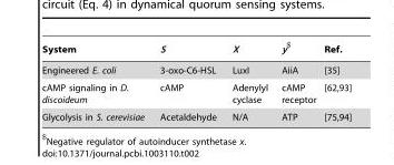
<table><thead><tr><td>System</td><td>S</td><td>X</td><td>y$</td><td>Ref.</td></tr></thead><tbody><tr><td>Engineered E. coli</td><td>3-oxo-C6-HSL</td><td>LuxI</td><td>AiiA</td><td>[35]</td></tr><tr><td>cAMP signaling in D. discoideum</td><td>cAMP</td><td>Adenylyl cyclase</td><td>cAMP receptor</td><td>[62,93]</td></tr><tr><td>Glycolysis in S. cerevisiae</td><td>Acetaldehyde</td><td>N/A</td><td>ATP</td><td>[75,94]</td></tr></tbody></table>